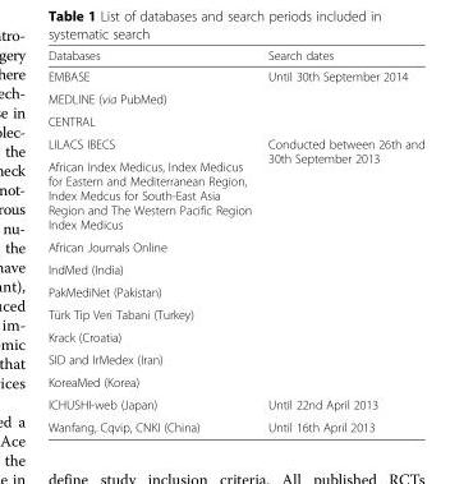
<table><thead><tr><td>Databases</td><td>Search dates</td></tr></thead><tbody><tr><td>EMBASE</td><td rowspan="3">Until 30th September 2014</td></tr><tr><td>MEDLINE (via PubMed)</td></tr><tr><td>CENTRAL</td></tr><tr><td>LILACS IBECS</td><td rowspan="9">Conducted between 26th and 30th September 2013</td></tr><tr><td>African Index Medicus, Index Medicus for Eastern and Mediterranean Region, Index Medcus for South-East Asia Region and The Western Pacific Region Index Medicus</td></tr><tr><td>African Journals Online</td></tr><tr><td>IndMed (India)</td></tr><tr><td>PakMediNet (Pakistan)</td></tr><tr><td>Türk Tip Veri Tabani (Turkey)</td></tr><tr><td>Krack (Croatia)</td></tr><tr><td>SID and IrMedex (Iran)</td></tr><tr><td>KoreaMed (Korea)</td></tr><tr><td>ICHUSHI-web (Japan)</td><td>Until 22nd April 2013</td></tr><tr><td>Wanfang, Cqvip, CNKI (China)</td><td>Until 16th April 2013</td></tr></tbody></table>